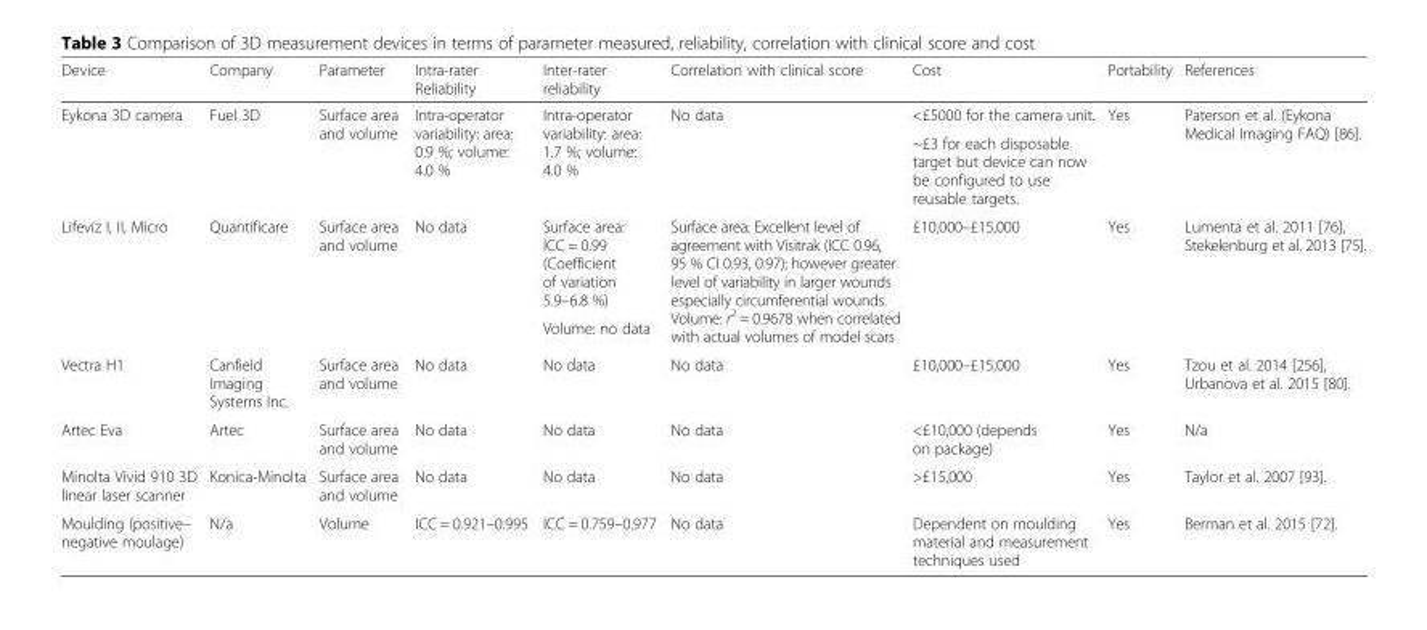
<table><thead><tr><td>Device</td><td>Company</td><td>Parameter</td><td>Intra-rater Reliability</td><td>Inter-rater reliability</td><td>Correlation with clinical score</td><td>Cost</td><td>Portability</td><td>References</td></tr></thead><tbody><tr><td rowspan="2">Eykona 3D camera</td><td rowspan="2">Fuel 3D</td><td rowspan="2">Surface area and volume</td><td rowspan="2">Intra-operator variability: area: 0.9 %; volume: 4.0 %</td><td rowspan="2">Intra-operator variability: area: 1.7 %; volume: 4.0 %</td><td rowspan="2">No data</td><td>&lt;£5000 for the camera unit.</td><td rowspan="2">Yes</td><td rowspan="2">Paterson et al. (Eykona Medical Imaging FAQ) [86].</td></tr><tr><td>~£3 for each disposable target but device can now be configured to use reusable targets.</td></tr><tr><td rowspan="2">Lifeviz I, II, Micro</td><td rowspan="2">Quantificare</td><td rowspan="2">Surface area and volume</td><td rowspan="2">No data</td><td>Surface area: ICC = 0.99 (Coefficient of variation 5.9–6.8 %)</td><td rowspan="2">Surface area: Excellent level of agreement with Visitrak (ICC 0.96, 95 % CI 0.93, 0.97); however greater level of variability in larger wounds especially circumferential wounds. Volume: r<sup>2</sup> = 0.9678 when correlated with actual volumes of model scars</td><td rowspan="2">£10,000–£15,000</td><td rowspan="2">Yes</td><td rowspan="2">Lumenta et al. 2011 [76], Stekelenburg et al. 2013 [75].</td></tr><tr><td>Volume: no data</td></tr><tr><td>Vectra H1</td><td>Canfield Imaging Systems Inc.</td><td>Surface area and volume</td><td>No data</td><td>No data</td><td>No data</td><td>£10,000–£15,000</td><td>Yes</td><td>Tzou et al. 2014 [256], Urbanova et al. 2015 [80].</td></tr><tr><td>Artec Eva</td><td>Artec</td><td>Surface area and volume</td><td>No data</td><td>No data</td><td>No data</td><td>&lt;£10,000 (depends on package)</td><td>Yes</td><td>N/a</td></tr><tr><td>Minolta Vivid 910 3D linear laser scanner</td><td>Konica-Minolta</td><td>Surface area and volume</td><td>No data</td><td>No data</td><td>No data</td><td>&gt;£15,000</td><td>Yes</td><td>Taylor et al. 2007 [93].</td></tr><tr><td>Moulding (positive– negative moulage)</td><td>N/a</td><td>Volume</td><td>ICC = 0.921–0.995</td><td>ICC = 0.759–0.977</td><td>No data</td><td>Dependent on moulding material and measurement techniques used</td><td>Yes</td><td>Berman et al. 2015 [72].</td></tr></tbody></table>